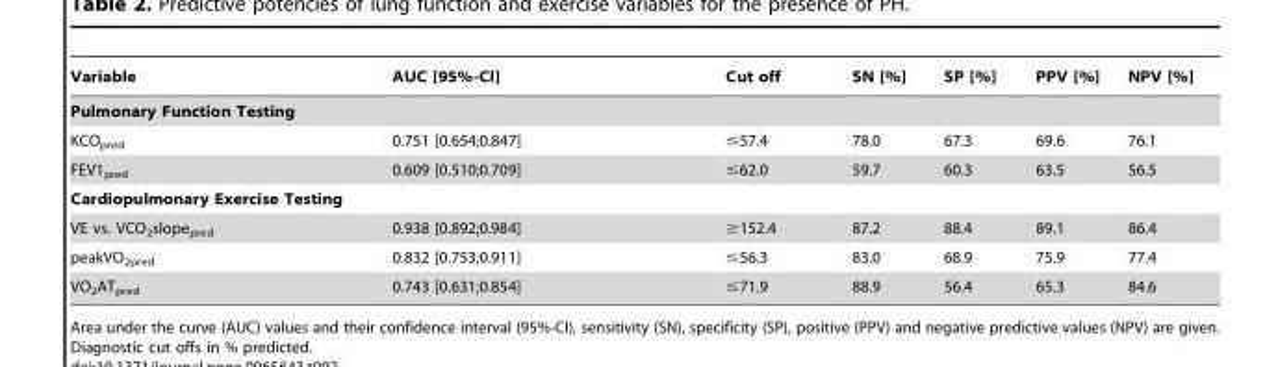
<table><thead><tr><td>Variable</td><td>AUC [95%-CI]</td><td>Cut off</td><td>SN [%]</td><td>SP [%]</td><td>PPV [%]</td><td>NPV [%]</td></tr></thead><tbody><tr><td colspan="7">Pulmonary Function Testing</td></tr><tr><td>KCO<sub>pred</sub></td><td>0.751 [0.654;0.847]</td><td>≤57.4</td><td>78.0</td><td>67.3</td><td>69.6</td><td>76.1</td></tr><tr><td>FEV1<sub>pred</sub></td><td>0.609 [0.510;0.709]</td><td>≤62.0</td><td>59.7</td><td>60.3</td><td>63.5</td><td>56.5</td></tr><tr><td colspan="7">Cardiopulmonary Exercise Testing</td></tr><tr><td>VE vs. VCO<sub>2</sub>slope<sub>pred</sub></td><td>0.938 [0.892;0.984]</td><td>≥152.4</td><td>87.2</td><td>88.4</td><td>89.1</td><td>86.4</td></tr><tr><td>peakVO<sub>2pred</sub></td><td>0.832 [0.753;0.911]</td><td>≤56.3</td><td>83.0</td><td>68.9</td><td>75.9</td><td>77.4</td></tr><tr><td>VO<sub>2</sub>AT<sub>pred</sub></td><td>0.743 [0.631;0.854]</td><td>≤71.9</td><td>88.9</td><td>56.4</td><td>65.3</td><td>84.6</td></tr></tbody></table>